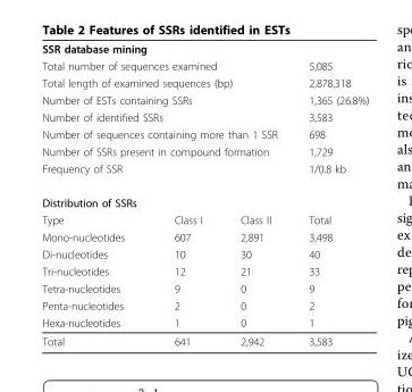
<table><thead><tr><td rowspan="8" colspan="3">SSR database mining Total number of sequences examined Total length of examined sequences (bp) Number of ESTs containing SSRs Number of identified SSRs Number of sequences containing more than 1 SSR Number of SSRs present in compound formation Frequency of SSR</td><td rowspan="16">5,085 2,878,318 1,365 (26.8%) 3,583 698 1,729 1/0.8 kb Total 3,498 40 33 9 2 1</td></tr><tr></tr><tr></tr><tr></tr><tr></tr><tr></tr><tr></tr><tr></tr><tr><td rowspan="8">Distribution of SSRs Type Mono-nucleotides Di-nucleotides Tri-nucleotides Tetra-nucleotides Penta-nucleotides Hexa-nucleotides</td><td rowspan="8">Class I 607 10 12 9 2 1</td><td rowspan="8">Class II 2,891 30 21 0 0 0</td></tr><tr></tr><tr></tr><tr></tr><tr></tr><tr></tr><tr></tr><tr></tr></thead><tbody><tr><td>Total</td><td>641</td><td>2,942</td><td>3,583</td></tr></tbody></table>